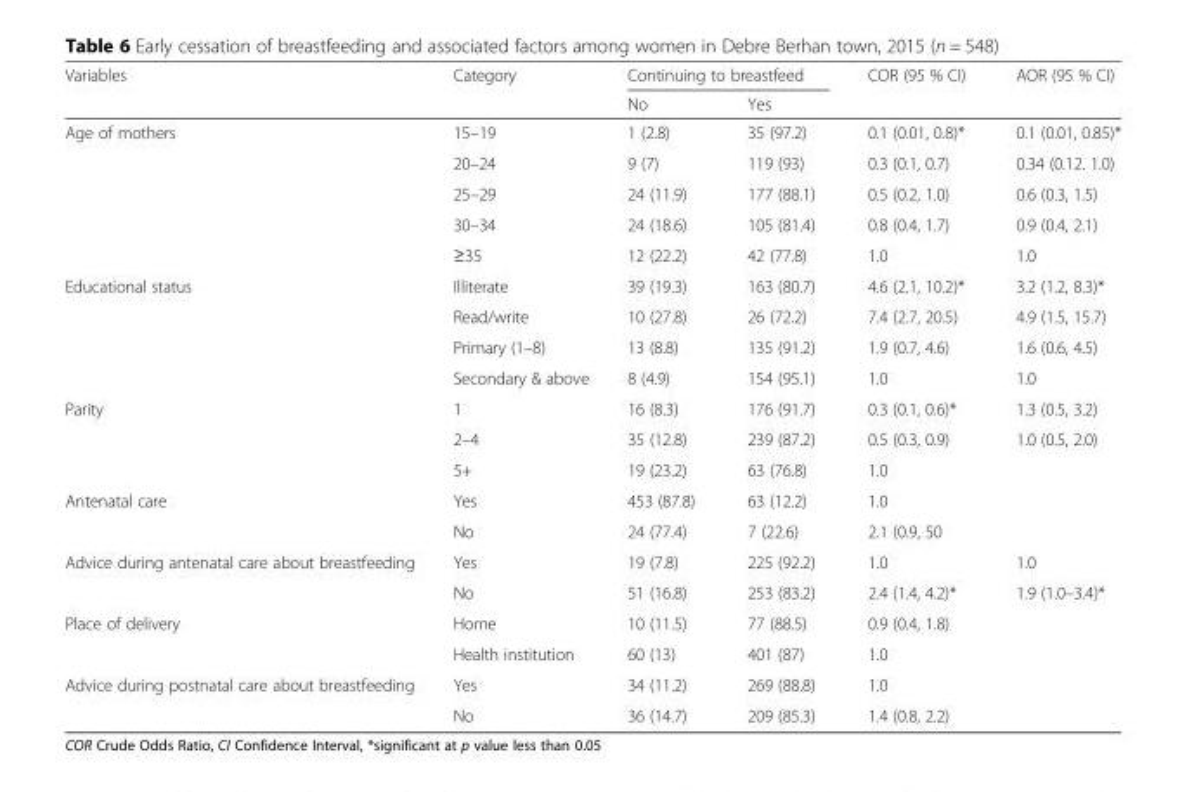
<table><thead><tr><td rowspan="2">Variables</td><td rowspan="2">Category</td><td colspan="2">Continuing to breastfeed</td><td rowspan="2">COR (95 % CI)</td><td rowspan="2">AOR (95 % CI)</td></tr><tr><td>No</td><td>Yes</td></tr></thead><tbody><tr><td rowspan="5">Age of mothers</td><td>15–19</td><td>1 (2.8)</td><td>35 (97.2)</td><td>0.1 (0.01, 0.8)*</td><td>0.1 (0.01, 0.85)*</td></tr><tr><td>20–24</td><td>9 (7)</td><td>119 (93)</td><td>0.3 (0.1, 0.7)</td><td>0.34 (0.12. 1.0)</td></tr><tr><td>25–29</td><td>24 (11.9)</td><td>177 (88.1)</td><td>0.5 (0.2, 1.0)</td><td>0.6 (0.3, 1.5)</td></tr><tr><td>30–34</td><td>24 (18.6)</td><td>105 (81.4)</td><td>0.8 (0.4, 1.7)</td><td>0.9 (0.4, 2.1)</td></tr><tr><td>≥35</td><td>12 (22.2)</td><td>42 (77.8)</td><td>1.0</td><td>1.0</td></tr><tr><td rowspan="4">Educational status</td><td>Illiterate</td><td>39 (19.3)</td><td>163 (80.7)</td><td>4.6 (2.1, 10.2)*</td><td>3.2 (1.2, 8.3)*</td></tr><tr><td>Read/write</td><td>10 (27.8)</td><td>26 (72.2)</td><td>7.4 (2.7, 20.5)</td><td>4.9 (1.5, 15.7)</td></tr><tr><td>Primary (1–8)</td><td>13 (8.8)</td><td>135 (91.2)</td><td>1.9 (0.7, 4.6)</td><td>1.6 (0.6, 4.5)</td></tr><tr><td>Secondary &amp; above</td><td>8 (4.9)</td><td>154 (95.1)</td><td>1.0</td><td>1.0</td></tr><tr><td rowspan="3">Parity</td><td>1</td><td>16 (8.3)</td><td>176 (91.7)</td><td>0.3 (0.1, 0.6)*</td><td>1.3 (0.5, 3.2)</td></tr><tr><td>2–4</td><td>35 (12.8)</td><td>239 (87.2)</td><td>0.5 (0.3, 0.9)</td><td>1.0 (0.5, 2.0)</td></tr><tr><td>5+</td><td>19 (23.2)</td><td>63 (76.8)</td><td>1.0</td><td></td></tr><tr><td rowspan="2">Antenatal care</td><td>Yes</td><td>453 (87.8)</td><td>63 (12.2)</td><td>1.0</td><td></td></tr><tr><td>No</td><td>24 (77.4)</td><td>7 (22.6)</td><td>2.1 (0.9, 50</td><td></td></tr><tr><td rowspan="2">Advice during antenatal care about breastfeeding</td><td>Yes</td><td>19 (7.8)</td><td>225 (92.2)</td><td>1.0</td><td>1.0</td></tr><tr><td>No</td><td>51 (16.8)</td><td>253 (83.2)</td><td>2.4 (1.4, 4.2)*</td><td>1.9 (1.0–3.4)*</td></tr><tr><td rowspan="2">Place of delivery</td><td>Home</td><td>10 (11.5)</td><td>77 (88.5)</td><td>0.9 (0.4, 1.8)</td><td></td></tr><tr><td>Health institution</td><td>60 (13)</td><td>401 (87)</td><td>1.0</td><td></td></tr><tr><td rowspan="2">Advice during postnatal care about breastfeeding</td><td>Yes</td><td>34 (11.2)</td><td>269 (88.8)</td><td>1.0</td><td></td></tr><tr><td>No</td><td>36 (14.7)</td><td>209 (85.3)</td><td>1.4 (0.8, 2.2)</td><td></td></tr></tbody></table>